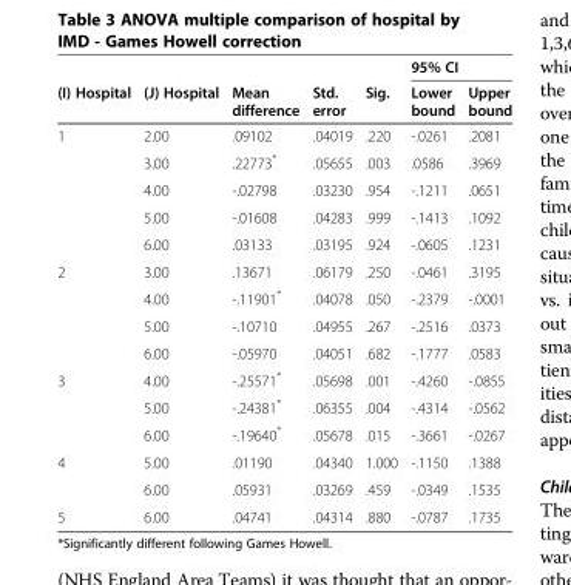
<table><thead><tr><td rowspan="2">(I) Hospital</td><td rowspan="2">(J) Hospital</td><td rowspan="2">Mean difference</td><td rowspan="2">Std. error</td><td rowspan="2">Sig.</td><td colspan="2">95% CI</td></tr><tr><td>Lower bound</td><td>Upper bound</td></tr></thead><tbody><tr><td rowspan="5">1</td><td>2.00</td><td>.09102</td><td>.04019</td><td>.220</td><td>-.0261</td><td>.2081</td></tr><tr><td>3.00</td><td>.22773*</td><td>.05655</td><td>.003</td><td>.0586</td><td>.3969</td></tr><tr><td>4.00</td><td>-.02798</td><td>.03230</td><td>.954</td><td>-.1211</td><td>.0651</td></tr><tr><td>5.00</td><td>-.01608</td><td>.04283</td><td>.999</td><td>-.1413</td><td>.1092</td></tr><tr><td>6.00</td><td>.03133</td><td>.03195</td><td>.924</td><td>-.0605</td><td>.1231</td></tr><tr><td rowspan="4">2</td><td>3.00</td><td>.13671</td><td>.06179</td><td>.250</td><td>-.0461</td><td>.3195</td></tr><tr><td>4.00</td><td>-.11901*</td><td>.04078</td><td>.050</td><td>-.2379</td><td>-.0001</td></tr><tr><td>5.00</td><td>-.10710</td><td>.04955</td><td>.267</td><td>-.2516</td><td>.0373</td></tr><tr><td>6.00</td><td>-.05970</td><td>.04051</td><td>.682</td><td>-.1777</td><td>.0583</td></tr><tr><td rowspan="3">3</td><td>4.00</td><td>-.25571*</td><td>.05698</td><td>.001</td><td>-.4260</td><td>-.0855</td></tr><tr><td>5.00</td><td>-.24381*</td><td>.06355</td><td>.004</td><td>-.4314</td><td>-.0562</td></tr><tr><td>6.00</td><td>-.19640*</td><td>.05678</td><td>.015</td><td>-.3661</td><td>-.0267</td></tr><tr><td rowspan="2">4</td><td>5.00</td><td>.01190</td><td>.04340</td><td>1.000</td><td>-.1150</td><td>.1388</td></tr><tr><td>6.00</td><td>.05931</td><td>.03269</td><td>.459</td><td>-.0349</td><td>.1535</td></tr><tr><td>5</td><td>6.00</td><td>.04741</td><td>.04314</td><td>.880</td><td>-.0787</td><td>.1735</td></tr></tbody></table>